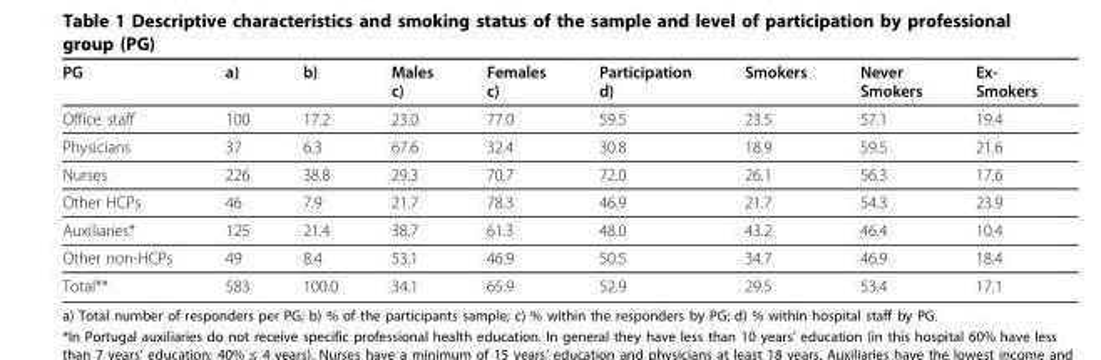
<table><thead><tr><td>PG</td><td>a)</td><td>b)</td><td>Males c)</td><td>Females c)</td><td>Participation d)</td><td>Smokers</td><td>Never Smokers</td><td>Ex- Smokers</td></tr></thead><tbody><tr><td>Office staff</td><td>100</td><td>17.2</td><td>23.0</td><td>77.0</td><td>59.5</td><td>23.5</td><td>57.1</td><td>19.4</td></tr><tr><td>Physicians</td><td>37</td><td>6.3</td><td>67.6</td><td>32.4</td><td>30.8</td><td>18.9</td><td>59.5</td><td>21.6</td></tr><tr><td>Nurses</td><td>226</td><td>38.8</td><td>29.3</td><td>70.7</td><td>72.0</td><td>26.1</td><td>56.3</td><td>17.6</td></tr><tr><td>Other HCPs</td><td>46</td><td>7.9</td><td>21.7</td><td>78.3</td><td>46.9</td><td>21.7</td><td>54.3</td><td>23.9</td></tr><tr><td>Auxiliaries*</td><td>125</td><td>21.4</td><td>38.7</td><td>61.3</td><td>48.0</td><td>43.2</td><td>46.4</td><td>10.4</td></tr><tr><td>Other non-HCPs</td><td>49</td><td>8.4</td><td>53.1</td><td>46.9</td><td>50.5</td><td>34.7</td><td>46.9</td><td>18.4</td></tr><tr><td>Total**</td><td>583</td><td>100.0</td><td>34.1</td><td>65.9</td><td>52.9</td><td>29.5</td><td>53.4</td><td>17.1</td></tr></tbody></table>